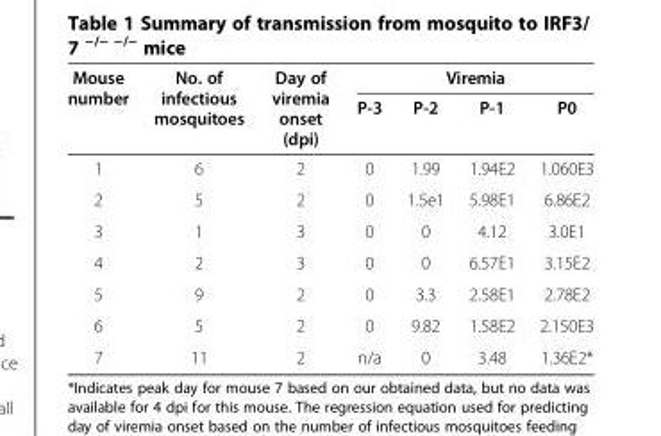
<table><thead><tr><td rowspan="2">Mouse number</td><td rowspan="2">No. of infectious mosquitoes</td><td rowspan="2">Day of viremia onset (dpi)</td><td colspan="4">Viremia</td></tr><tr><td>P-3</td><td>P-2</td><td>P-1</td><td>P0</td></tr></thead><tbody><tr><td>1</td><td>6</td><td>2</td><td>0</td><td>1.99</td><td>1.94E2</td><td>1.060E3</td></tr><tr><td>2</td><td>5</td><td>2</td><td>0</td><td>1.5e1</td><td>5.98E1</td><td>6.86E2</td></tr><tr><td>3</td><td>1</td><td>3</td><td>0</td><td>0</td><td>4.12</td><td>3.0E1</td></tr><tr><td>4</td><td>2</td><td>3</td><td>0</td><td>0</td><td>6.57E1</td><td>3.15E2</td></tr><tr><td>5</td><td>9</td><td>2</td><td>0</td><td>3.3</td><td>2.58E1</td><td>2.78E2</td></tr><tr><td>6</td><td>5</td><td>2</td><td>0</td><td>9.82</td><td>1.58E2</td><td>2.150E3</td></tr><tr><td>7</td><td>11</td><td>2</td><td>n/a</td><td>0</td><td>3.48</td><td>1.36E2*</td></tr></tbody></table>